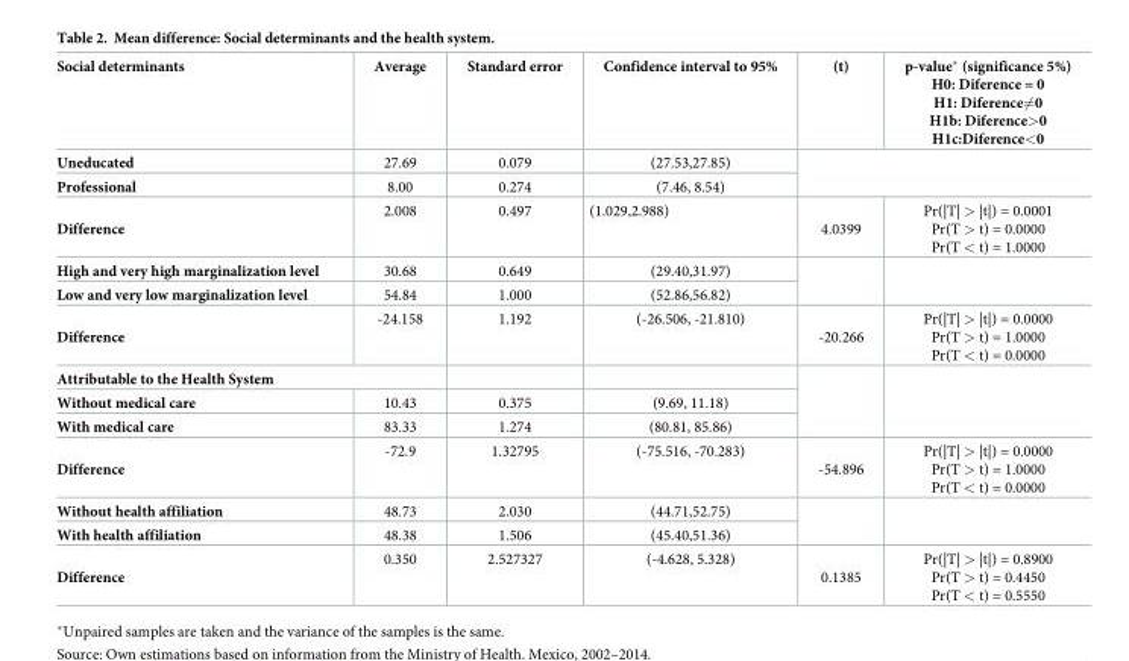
<table><thead><tr><td>Social determinants</td><td>Average</td><td>Standard error</td><td>Confidence interval to 95%</td><td>(t)</td><td>p-value� (significance 5%) H0: Diference = 0 H1: Diference6¼0 H1b: Diference&gt;0 H1c:Diference&lt;0</td></tr></thead><tbody><tr><td>Uneducated</td><td>27.69</td><td>0.079</td><td>(27.53,27.85)</td><td rowspan="2" colspan="2"></td></tr><tr><td>Professional</td><td>8.00</td><td>0.274</td><td>(7.46, 8.54)</td></tr><tr><td>Difference</td><td>2.008</td><td>0.497</td><td>(1.029,2.988)</td><td>4.0399</td><td>Pr(|T| &gt; |t|) = 0.0001 Pr(T &gt; t) = 0.0000 Pr(T &lt; t) = 1.0000</td></tr><tr><td>High and very high marginalization level</td><td>30.68</td><td>0.649</td><td>(29.40,31.97)</td><td rowspan="2"></td><td rowspan="2"></td></tr><tr><td>Low and very low marginalization level</td><td>54.84</td><td>1.000</td><td>(52.86,56.82)</td></tr><tr><td>Difference</td><td>-24.158</td><td>1.192</td><td>(-26.506, -21.810)</td><td>-20.266</td><td>Pr(|T| &gt; |t|) = 0.0000 Pr(T &gt; t) = 1.0000 Pr(T &lt; t) = 0.0000</td></tr><tr><td colspan="4">Attributable to the Health System</td><td rowspan="3"></td><td rowspan="3"></td></tr><tr><td>Without medical care</td><td>10.43</td><td>0.375</td><td>(9.69, 11.18)</td></tr><tr><td>With medical care</td><td>83.33</td><td>1.274</td><td>(80.81, 85.86)</td></tr><tr><td>Difference</td><td>-72.9</td><td>1.32795</td><td>(-75.516, -70.283)</td><td>-54.896</td><td>Pr(|T| &gt; |t|) = 0.0000 Pr(T &gt; t) = 1.0000 Pr(T &lt; t) = 0.0000</td></tr><tr><td>Without health affiliation</td><td>48.73</td><td>2.030</td><td>(44.71,52.75)</td><td rowspan="2"></td><td rowspan="2"></td></tr><tr><td>With health affiliation</td><td>48.38</td><td>1.506</td><td>(45.40,51.36)</td></tr><tr><td>Difference</td><td>0.350</td><td>2.527327</td><td>(-4.628, 5.328)</td><td>0.1385</td><td>Pr(|T| &gt; |t|) = 0.8900 Pr(T &gt; t) = 0.4450 Pr(T &lt; t) = 0.5550</td></tr></tbody></table>